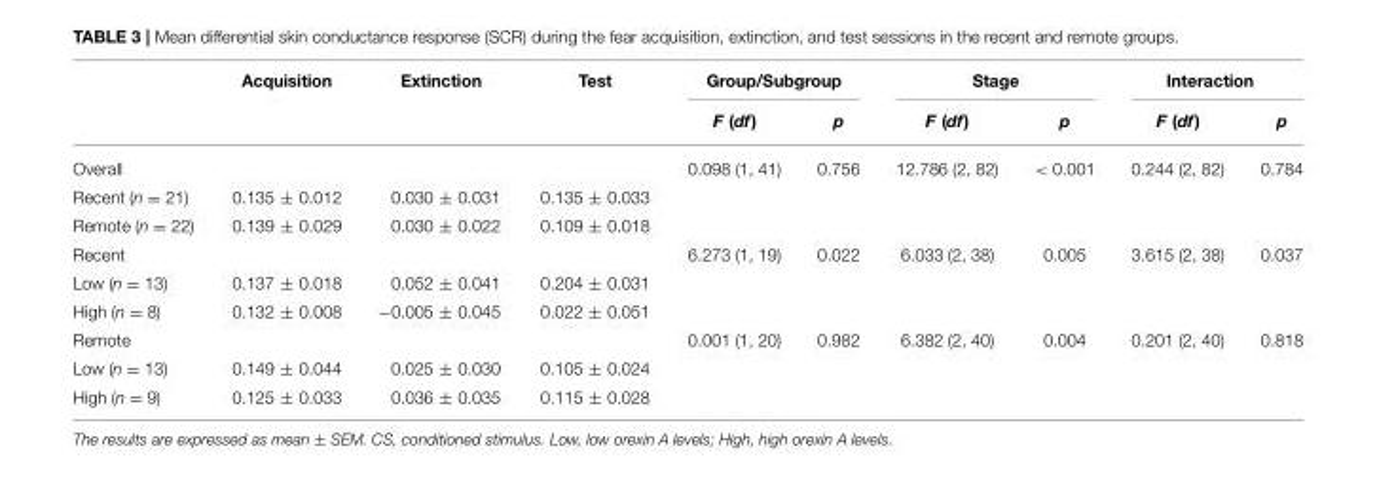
<table><thead><tr><td rowspan="2"></td><td rowspan="2">Acquisition</td><td rowspan="2">Extinction</td><td rowspan="2">Test</td><td colspan="2">Group/Subgroup</td><td colspan="2">Stage</td><td colspan="2">Interaction</td></tr><tr><td>F (df)</td><td>p</td><td>F (df)</td><td>p</td><td>F (df)</td><td>p</td></tr></thead><tbody><tr><td>Overall</td><td></td><td></td><td></td><td>0.098 (1, 41)</td><td>0.756</td><td>12.786 (2, 82)</td><td>&lt; 0.001</td><td>0.244 (2, 82)</td><td>0.784</td></tr><tr><td>Recent (n = 21)</td><td>0.135 ± 0.012</td><td>0.030 ± 0.031</td><td>0.135 ± 0.033</td><td></td><td></td><td></td><td></td><td></td><td></td></tr><tr><td>Remote (n = 22)</td><td>0.139 ± 0.029</td><td>0.030 ± 0.022</td><td>0.109 ± 0.018</td><td></td><td></td><td></td><td></td><td></td><td></td></tr><tr><td>Recent</td><td></td><td></td><td></td><td>6.273 (1, 19)</td><td>0.022</td><td>6.033 (2, 38)</td><td>0.005</td><td>3.615 (2, 38)</td><td>0.037</td></tr><tr><td>Low (n = 13)</td><td>0.137 ± 0.018</td><td>0.052 ± 0.041</td><td>0.204 ± 0.031</td><td></td><td></td><td></td><td></td><td></td><td></td></tr><tr><td>High (n = 8)</td><td>0.132 ± 0.008</td><td>−0.005 ± 0.045</td><td>0.022 ± 0.051</td><td></td><td></td><td></td><td></td><td></td><td></td></tr><tr><td>Remote</td><td></td><td></td><td></td><td>0.001 (1, 20)</td><td>0.982</td><td>6.382 (2, 40)</td><td>0.004</td><td>0.201 (2, 40)</td><td>0.818</td></tr><tr><td>Low (n = 13)</td><td>0.149 ± 0.044</td><td>0.025 ± 0.030</td><td>0.105 ± 0.024</td><td></td><td></td><td></td><td></td><td></td><td></td></tr><tr><td>High (n = 9)</td><td>0.125 ± 0.033</td><td>0.036 ± 0.035</td><td>0.115 ± 0.028</td><td></td><td></td><td></td><td></td><td></td><td></td></tr></tbody></table>